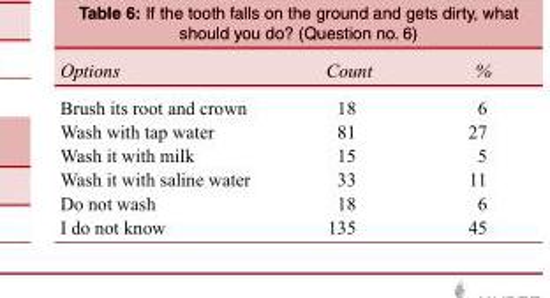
<table><tbody><tr><td>Options</td><td>Count</td><td>%</td></tr><tr><td>Brush its root and crown</td><td>18</td><td>6</td></tr><tr><td>Wash with tap water</td><td>81</td><td>27</td></tr><tr><td>Wash it with milk</td><td>15</td><td>5</td></tr><tr><td>Wash it with saline water</td><td>33</td><td>11</td></tr><tr><td>Do not wash</td><td>18</td><td>6</td></tr><tr><td>I do not know</td><td>135</td><td>45</td></tr></tbody></table>